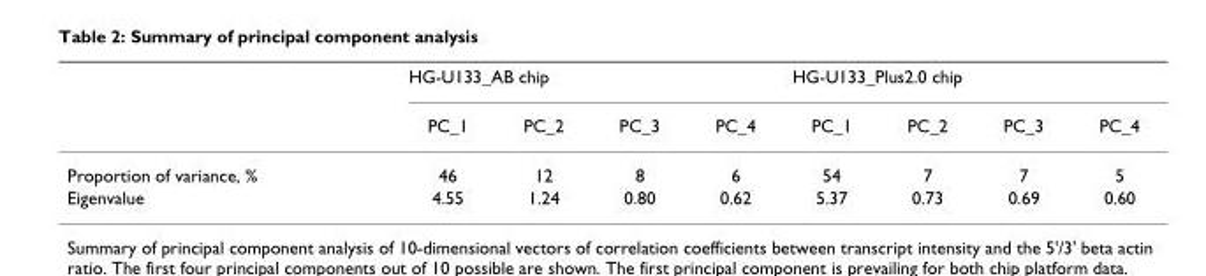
<table><thead><tr><td rowspan="2"></td><td colspan="4">HG-U133_AB chip</td><td colspan="4">HG-U133_Plus2.0 chip</td></tr><tr><td>PC_1</td><td>PC_2</td><td>PC_3</td><td>PC_4</td><td>PC_1</td><td>PC_2</td><td>PC_3</td><td>PC_4</td></tr></thead><tbody><tr><td>Proportion of variance, %</td><td>46</td><td>12</td><td>8</td><td>6</td><td>54</td><td>7</td><td>7</td><td>5</td></tr><tr><td>Eigenvalue</td><td>4.55</td><td>1.24</td><td>0.80</td><td>0.62</td><td>5.37</td><td>0.73</td><td>0.69</td><td>0.60</td></tr></tbody></table>